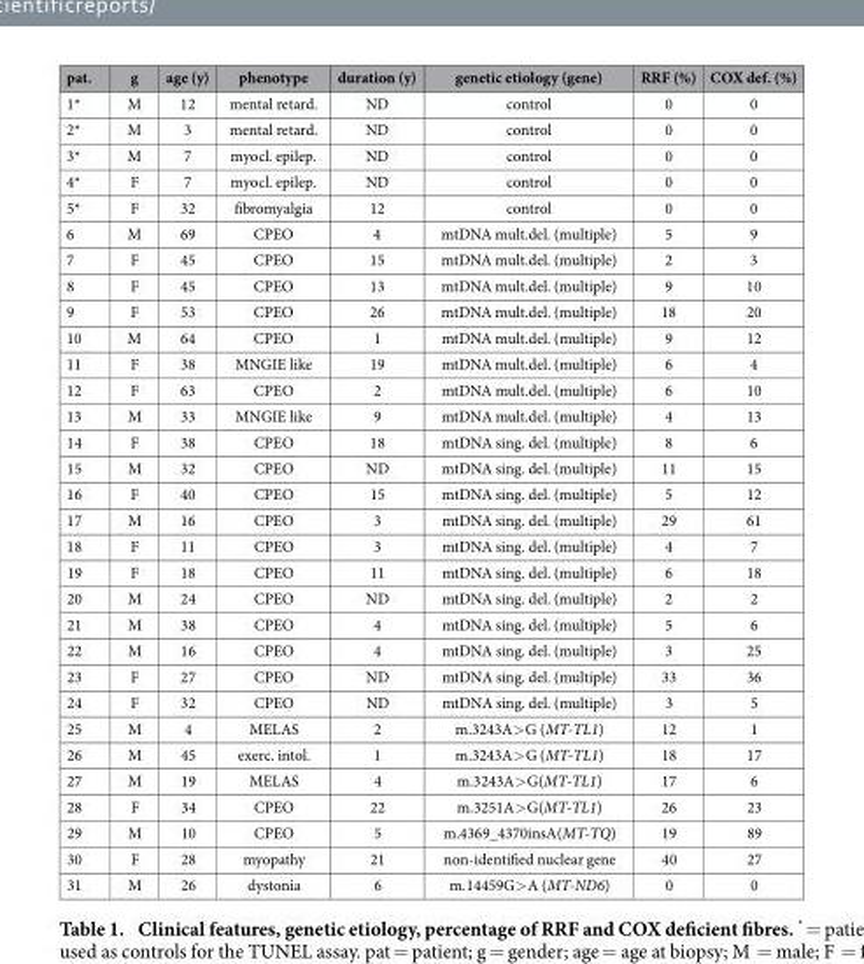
<table><thead><tr><td>pat.</td><td>g</td><td>age (y)</td><td>phenotype</td><td>duration (y)</td><td>genetic etiology (gene)</td><td>RRF (%)</td><td>COX def. (%)</td></tr></thead><tbody><tr><td>1*</td><td>M</td><td>12</td><td>mental retard.</td><td>ND</td><td>control</td><td>0</td><td>0</td></tr><tr><td>2*</td><td>M</td><td>3</td><td>mental retard.</td><td>ND</td><td>control</td><td>0</td><td>0</td></tr><tr><td>3*</td><td>M</td><td>7</td><td>myocl. epilep.</td><td>ND</td><td>control</td><td>0</td><td>0</td></tr><tr><td>4*</td><td>F</td><td>7</td><td>myocl. epilep.</td><td>ND</td><td>control</td><td>0</td><td>0</td></tr><tr><td>5*</td><td>F</td><td>32</td><td>fibromyalgia</td><td>12</td><td>control</td><td>0</td><td>0</td></tr><tr><td>6</td><td>M</td><td>69</td><td>CPEO</td><td>4</td><td>mtDNA mult.del. (multiple)</td><td>5</td><td>9</td></tr><tr><td>7</td><td>F</td><td>45</td><td>CPEO</td><td>15</td><td>mtDNA mult.del. (multiple)</td><td>2</td><td>3</td></tr><tr><td>8</td><td>F</td><td>45</td><td>CPEO</td><td>13</td><td>mtDNA mult.del. (multiple)</td><td>9</td><td>10</td></tr><tr><td>9</td><td>F</td><td>53</td><td>CPEO</td><td>26</td><td>mtDNA mult.del. (multiple)</td><td>18</td><td>20</td></tr><tr><td>10</td><td>M</td><td>64</td><td>CPEO</td><td>1</td><td>mtDNA mult.del. (multiple)</td><td>9</td><td>12</td></tr><tr><td>11</td><td>F</td><td>38</td><td>MNGIE like</td><td>19</td><td>mtDNA mult.del. (multiple)</td><td>6</td><td>4</td></tr><tr><td>12</td><td>F</td><td>63</td><td>CPEO</td><td>2</td><td>mtDNA mult.del. (multiple)</td><td>6</td><td>10</td></tr><tr><td>13</td><td>M</td><td>33</td><td>MNGIE like</td><td>9</td><td>mtDNA mult.del. (multiple)</td><td>4</td><td>13</td></tr><tr><td>14</td><td>F</td><td>38</td><td>CPEO</td><td>18</td><td>mtDNA sing. del. (multiple)</td><td>8</td><td>6</td></tr><tr><td>15</td><td>M</td><td>32</td><td>CPEO</td><td>ND</td><td>mtDNA sing. del. (multiple)</td><td>11</td><td>15</td></tr><tr><td>16</td><td>F</td><td>40</td><td>CPEO</td><td>15</td><td>mtDNA sing. del. (multiple)</td><td>5</td><td>12</td></tr><tr><td>17</td><td>M</td><td>16</td><td>CPEO</td><td>3</td><td>mtDNA sing. del. (multiple)</td><td>29</td><td>61</td></tr><tr><td>18</td><td>F</td><td>11</td><td>CPEO</td><td>3</td><td>mtDNA sing. del. (multiple)</td><td>4</td><td>7</td></tr><tr><td>19</td><td>F</td><td>18</td><td>CPEO</td><td>11</td><td>mtDNA sing. del. (multiple)</td><td>6</td><td>18</td></tr><tr><td>20</td><td>M</td><td>24</td><td>CPEO</td><td>ND</td><td>mtDNA sing. del. (multiple)</td><td>2</td><td>2</td></tr><tr><td>21</td><td>M</td><td>38</td><td>CPEO</td><td>4</td><td>mtDNA sing. del. (multiple)</td><td>5</td><td>6</td></tr><tr><td>22</td><td>M</td><td>16</td><td>CPEO</td><td>4</td><td>mtDNA sing. del. (multiple)</td><td>3</td><td>25</td></tr><tr><td>23</td><td>F</td><td>27</td><td>CPEO</td><td>ND</td><td>mtDNA sing. del. (multiple)</td><td>33</td><td>36</td></tr><tr><td>24</td><td>F</td><td>32</td><td>CPEO</td><td>ND</td><td>mtDNA sing. del. (multiple)</td><td>3</td><td>5</td></tr><tr><td>25</td><td>M</td><td>4</td><td>MELAS</td><td>2</td><td>m.3243A&gt; G (MT-TL1)</td><td>12</td><td>1</td></tr><tr><td>26</td><td>M</td><td>45</td><td>exerc. intol.</td><td>1</td><td>m.3243A&gt; G (MT-TL1)</td><td>18</td><td>17</td></tr><tr><td>27</td><td>M</td><td>19</td><td>MELAS</td><td>4</td><td>m.3243A&gt; G(MT-TL1)</td><td>17</td><td>6</td></tr><tr><td>28</td><td>F</td><td>34</td><td>CPEO</td><td>22</td><td>m.3251A&gt; G(MT-TL1)</td><td>26</td><td>23</td></tr><tr><td>29</td><td>M</td><td>10</td><td>CPEO</td><td>5</td><td>m.4369_4370insA(MT-TQ)</td><td>19</td><td>89</td></tr><tr><td>30</td><td>F</td><td>28</td><td>myopathy</td><td>21</td><td>non-identified nuclear gene</td><td>40</td><td>27</td></tr><tr><td>31</td><td>M</td><td>26</td><td>dystonia</td><td>6</td><td>m.14459G&gt; A (MT-ND6)</td><td>0</td><td>0</td></tr></tbody></table>